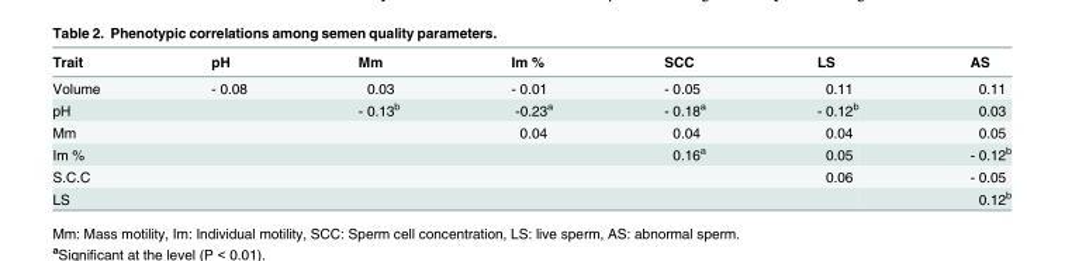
<table><thead><tr><td>Trait</td><td>pH</td><td>Mm</td><td>Im %</td><td>SCC</td><td>LS</td><td>AS</td></tr></thead><tbody><tr><td>Volume</td><td>- 0.08</td><td>0.03</td><td>- 0.01</td><td>- 0.05</td><td>0.11</td><td>0.11</td></tr><tr><td>pH</td><td></td><td>- 0.13<sup>b</sup></td><td>-0.23<sup>a</sup></td><td>- 0.18<sup>a</sup></td><td>- 0.12<sup>b</sup></td><td>0.03</td></tr><tr><td>Mm</td><td></td><td></td><td>0.04</td><td>0.04</td><td>0.04</td><td>0.05</td></tr><tr><td>Im %</td><td></td><td></td><td></td><td>0.16<sup>a</sup></td><td>0.05</td><td>- 0.12<sup>b</sup></td></tr><tr><td>S.C.C</td><td></td><td></td><td></td><td></td><td>0.06</td><td>- 0.05</td></tr><tr><td>LS</td><td></td><td></td><td></td><td></td><td></td><td>0.12<sup>b</sup></td></tr></tbody></table>